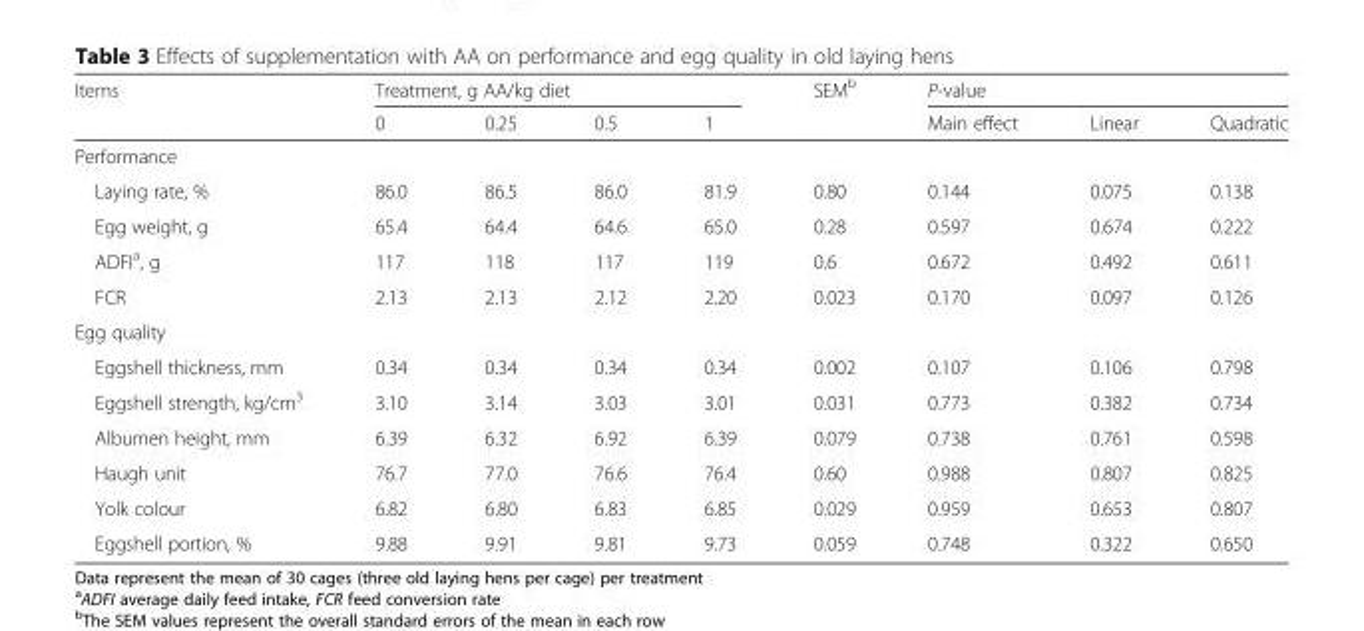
<table><thead><tr><td rowspan="2">Items</td><td colspan="4">Treatment, g AA/kg diet</td><td rowspan="2">SEM<sup>b</sup></td><td colspan="3">P-value</td></tr><tr><td>0</td><td>0.25</td><td>0.5</td><td>1</td><td>Main effect</td><td>Linear</td><td>Quadratic</td></tr></thead><tbody><tr><td colspan="9">Performance</td></tr><tr><td>Laying rate, %</td><td>86.0</td><td>86.5</td><td>86.0</td><td>81.9</td><td>0.80</td><td>0.144</td><td>0.075</td><td>0.138</td></tr><tr><td>Egg weight, g</td><td>65.4</td><td>64.4</td><td>64.6</td><td>65.0</td><td>0.28</td><td>0.597</td><td>0.674</td><td>0.222</td></tr><tr><td>ADFI<sup>a</sup>, g</td><td>117</td><td>118</td><td>117</td><td>119</td><td>0.6</td><td>0.672</td><td>0.492</td><td>0.611</td></tr><tr><td>FCR</td><td>2.13</td><td>2.13</td><td>2.12</td><td>2.20</td><td>0.023</td><td>0.170</td><td>0.097</td><td>0.126</td></tr><tr><td colspan="9">Egg quality</td></tr><tr><td>Eggshell thickness, mm</td><td>0.34</td><td>0.34</td><td>0.34</td><td>0.34</td><td>0.002</td><td>0.107</td><td>0.106</td><td>0.798</td></tr><tr><td>Eggshell strength, kg/cm<sup>3</sup></td><td>3.10</td><td>3.14</td><td>3.03</td><td>3.01</td><td>0.031</td><td>0.773</td><td>0.382</td><td>0.734</td></tr><tr><td>Albumen height, mm</td><td>6.39</td><td>6.32</td><td>6.92</td><td>6.39</td><td>0.079</td><td>0.738</td><td>0.761</td><td>0.598</td></tr><tr><td>Haugh unit</td><td>76.7</td><td>77.0</td><td>76.6</td><td>76.4</td><td>0.60</td><td>0.988</td><td>0.807</td><td>0.825</td></tr><tr><td>Yolk colour</td><td>6.82</td><td>6.80</td><td>6.83</td><td>6.85</td><td>0.029</td><td>0.959</td><td>0.653</td><td>0.807</td></tr><tr><td>Eggshell portion, %</td><td>9.88</td><td>9.91</td><td>9.81</td><td>9.73</td><td>0.059</td><td>0.748</td><td>0.322</td><td>0.650</td></tr></tbody></table>